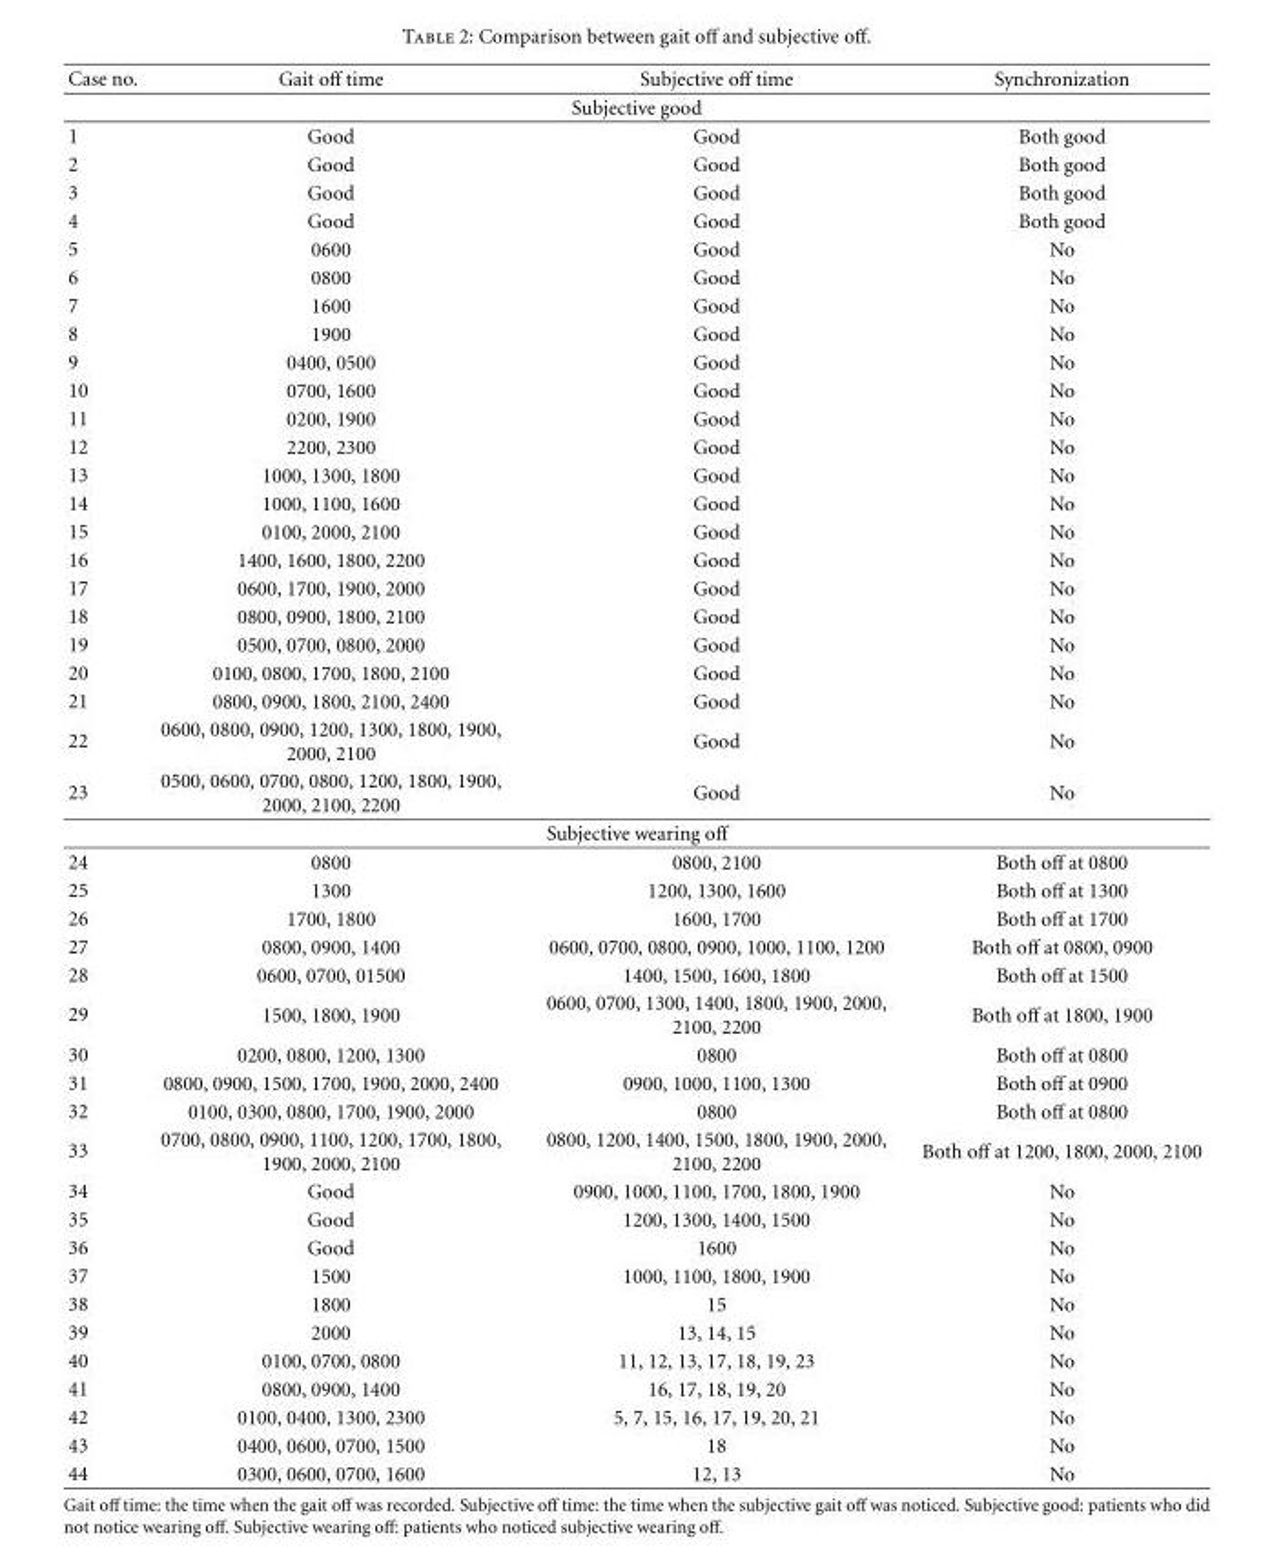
<table><thead><tr><td>Case no.</td><td>Gait off time</td><td>Subjective off time</td><td>Synchronization</td></tr></thead><tbody><tr><td colspan="4">Subjective good</td></tr><tr><td>1</td><td>Good</td><td>Good</td><td>Both good</td></tr><tr><td>2</td><td>Good</td><td>Good</td><td>Both good</td></tr><tr><td>3</td><td>Good</td><td>Good</td><td>Both good</td></tr><tr><td>4</td><td>Good</td><td>Good</td><td>Both good</td></tr><tr><td>5</td><td>0600</td><td>Good</td><td>No</td></tr><tr><td>6</td><td>0800</td><td>Good</td><td>No</td></tr><tr><td>7</td><td>1600</td><td>Good</td><td>No</td></tr><tr><td>8</td><td>1900</td><td>Good</td><td>No</td></tr><tr><td>9</td><td>0400, 0500</td><td>Good</td><td>No</td></tr><tr><td>10</td><td>0700, 1600</td><td>Good</td><td>No</td></tr><tr><td>11</td><td>0200, 1900</td><td>Good</td><td>No</td></tr><tr><td>12</td><td>2200, 2300</td><td>Good</td><td>No</td></tr><tr><td>13</td><td>1000, 1300, 1800</td><td>Good</td><td>No</td></tr><tr><td>14</td><td>1000, 1100, 1600</td><td>Good</td><td>No</td></tr><tr><td>15</td><td>0100, 2000, 2100</td><td>Good</td><td>No</td></tr><tr><td>16</td><td>1400, 1600, 1800, 2200</td><td>Good</td><td>No</td></tr><tr><td>17</td><td>0600, 1700, 1900, 2000</td><td>Good</td><td>No</td></tr><tr><td>18</td><td>0800, 0900, 1800, 2100</td><td>Good</td><td>No</td></tr><tr><td>19</td><td>0500, 0700, 0800, 2000</td><td>Good</td><td>No</td></tr><tr><td>20</td><td>0100, 0800, 1700, 1800, 2100</td><td>Good</td><td>No</td></tr><tr><td>21</td><td>0800, 0900, 1800, 2100, 2400</td><td>Good</td><td>No</td></tr><tr><td>22</td><td>0600, 0800, 0900, 1200, 1300, 1800, 1900, 2000, 2100</td><td>Good</td><td>No</td></tr><tr><td>23</td><td>0500, 0600, 0700, 0800, 1200, 1800, 1900, 2000, 2100, 2200</td><td>Good</td><td>No</td></tr><tr><td colspan="4">Subjective wearing off</td></tr><tr><td>24</td><td>0800</td><td>0800, 2100</td><td>Both off at 0800</td></tr><tr><td>25</td><td>1300</td><td>1200, 1300, 1600</td><td>Both off at 1300</td></tr><tr><td>26</td><td>1700, 1800</td><td>1600, 1700</td><td>Both off at 1700</td></tr><tr><td>27</td><td>0800, 0900, 1400</td><td>0600, 0700, 0800, 0900, 1000, 1100, 1200</td><td>Both off at 0800, 0900</td></tr><tr><td>28</td><td>0600, 0700, 01500</td><td>1400, 1500, 1600, 1800</td><td>Both off at 1500</td></tr><tr><td>29</td><td>1500, 1800, 1900</td><td>0600, 0700, 1300, 1400, 1800, 1900, 2000, 2100, 2200</td><td>Both off at 1800, 1900</td></tr><tr><td>30</td><td>0200, 0800, 1200, 1300</td><td>0800</td><td>Both off at 0800</td></tr><tr><td>31</td><td>0800, 0900, 1500, 1700, 1900, 2000, 2400</td><td>0900, 1000, 1100, 1300</td><td>Both off at 0900</td></tr><tr><td>32</td><td>0100, 0300, 0800, 1700, 1900, 2000</td><td>0800</td><td>Both off at 0800</td></tr><tr><td>33</td><td>0700, 0800, 0900, 1100, 1200, 1700, 1800, 1900, 2000, 2100</td><td>0800, 1200, 1400, 1500, 1800, 1900, 2000, 2100, 2200</td><td>Both off at 1200, 1800, 2000, 2100</td></tr><tr><td>34</td><td>Good</td><td>0900, 1000, 1100, 1700, 1800, 1900</td><td>No</td></tr><tr><td>35</td><td>Good</td><td>1200, 1300, 1400, 1500</td><td>No</td></tr><tr><td>36</td><td>Good</td><td>1600</td><td>No</td></tr><tr><td>37</td><td>1500</td><td>1000, 1100, 1800, 1900</td><td>No</td></tr><tr><td>38</td><td>1800</td><td>15</td><td>No</td></tr><tr><td>39</td><td>2000</td><td>13, 14, 15</td><td>No</td></tr><tr><td>40</td><td>0100, 0700, 0800</td><td>11, 12, 13, 17, 18, 19, 23</td><td>No</td></tr><tr><td>41</td><td>0800, 0900, 1400</td><td>16, 17, 18, 19, 20</td><td>No</td></tr><tr><td>42</td><td>0100, 0400, 1300, 2300</td><td>5, 7, 15, 16, 17, 19, 20, 21</td><td>No</td></tr><tr><td>43</td><td>0400, 0600, 0700, 1500</td><td>18</td><td>No</td></tr><tr><td>44</td><td>0300, 0600, 0700, 1600</td><td>12, 13</td><td>No</td></tr></tbody></table>